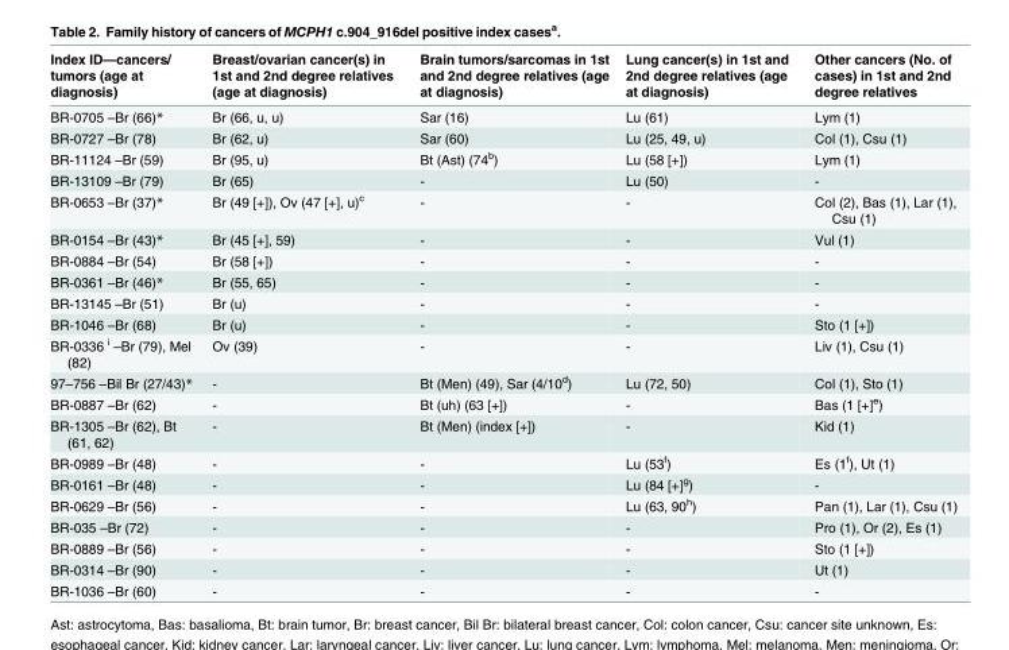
<table><thead><tr><td>Index ID—cancers/ tumors (age at diagnosis)</td><td>Breast/ovarian cancer(s) in 1st and 2nd degree relatives (age at diagnosis)</td><td>Brain tumors/sarcomas in 1st and 2nd degree relatives (age at diagnosis)</td><td>Lung cancer(s) in 1st and 2nd degree relatives (age at diagnosis)</td><td>Other cancers (No. of cases) in 1st and 2nd degree relatives</td></tr></thead><tbody><tr><td>BR-0705 –Br (66)*</td><td>Br (66, u, u)</td><td>Sar (16)</td><td>Lu (61)</td><td>Lym (1)</td></tr><tr><td>BR-0727 –Br (78)</td><td>Br (62, u)</td><td>Sar (60)</td><td>Lu (25, 49, u)</td><td>Col (1), Csu (1)</td></tr><tr><td>BR-11124 –Br (59)</td><td>Br (95, u)</td><td>Bt (Ast) (74<sup>b</sup>)</td><td>Lu (58 [+])</td><td>Lym (1)</td></tr><tr><td>BR-13109 –Br (79)</td><td>Br (65)</td><td>-</td><td>Lu (50)</td><td>-</td></tr><tr><td>BR-0653 –Br (37)*</td><td>Br (49 [+]), Ov (47 [+], u)<sup>c</sup></td><td>-</td><td>-</td><td>Col (2), Bas (1), Lar (1), Csu (1)</td></tr><tr><td>BR-0154 –Br (43)*</td><td>Br (45 [+], 59)</td><td>-</td><td>-</td><td>Vul (1)</td></tr><tr><td>BR-0884 –Br (54)</td><td>Br (58 [+])</td><td>-</td><td>-</td><td>-</td></tr><tr><td>BR-0361 –Br (46)*</td><td>Br (55, 65)</td><td>-</td><td>-</td><td>-</td></tr><tr><td>BR-13145 –Br (51)</td><td>Br (u)</td><td>-</td><td>-</td><td>-</td></tr><tr><td>BR-1046 –Br (68)</td><td>Br (u)</td><td>-</td><td>-</td><td>Sto (1 [+])</td></tr><tr><td>BR-0336 <sup>i</sup> –Br (79), Mel (82)</td><td>Ov (39)</td><td>-</td><td>-</td><td>Liv (1), Csu (1)</td></tr><tr><td>97–756 –Bil Br (27/43)*</td><td>-</td><td>Bt (Men) (49), Sar (4/10<sup>d</sup>)</td><td>Lu (72, 50)</td><td>Col (1), Sto (1)</td></tr><tr><td>BR-0887 –Br (62)</td><td>-</td><td>Bt (uh) (63 [+])</td><td>-</td><td>Bas (1 [+]<sup>e</sup>)</td></tr><tr><td>BR-1305 –Br (62), Bt (61, 62)</td><td>-</td><td>Bt (Men) (index [+])</td><td>-</td><td>Kid (1)</td></tr><tr><td>BR-0989 –Br (48)</td><td>-</td><td>-</td><td>Lu (53<sup>f</sup>)</td><td>Es (1<sup>f</sup>), Ut (1)</td></tr><tr><td>BR-0161 –Br (48)</td><td>-</td><td>-</td><td>Lu (84 [+]<sup>g</sup>)</td><td>-</td></tr><tr><td>BR-0629 –Br (56)</td><td>-</td><td>-</td><td>Lu (63, 90<sup>h</sup>)</td><td>Pan (1), Lar (1), Csu (1)</td></tr><tr><td>BR-035 –Br (72)</td><td>-</td><td>-</td><td>-</td><td>Pro (1), Or (2), Es (1)</td></tr><tr><td>BR-0889 –Br (56)</td><td>-</td><td>-</td><td>-</td><td>Sto (1 [+])</td></tr><tr><td>BR-0314 –Br (90)</td><td>-</td><td>-</td><td>-</td><td>Ut (1)</td></tr><tr><td>BR-1036 –Br (60)</td><td>-</td><td>-</td><td>-</td><td>-</td></tr></tbody></table>